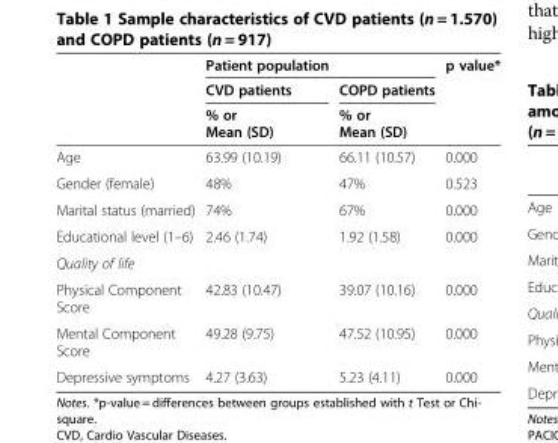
<table><thead><tr><td rowspan="3"></td><td colspan="2">Patient population</td><td rowspan="3">p value*</td></tr><tr><td rowspan="2">CVD patients % or Mean (SD)</td><td rowspan="2">COPD patients % or Mean (SD)</td></tr><tr></tr></thead><tbody><tr><td>Age</td><td>63.99 (10.19)</td><td>66.11 (10.57)</td><td>0.000</td></tr><tr><td>Gender (female)</td><td>48%</td><td>47%</td><td>0.523</td></tr><tr><td>Marital status (married)</td><td>74%</td><td>67%</td><td>0.000</td></tr><tr><td>Educational level (1–6)</td><td>2.46 (1.74)</td><td>1.92 (1.58)</td><td>0.000</td></tr><tr><td colspan="4">Quality of life</td></tr><tr><td>Physical Component Score</td><td>42.83 (10.47)</td><td>39.07 (10.16)</td><td>0.000</td></tr><tr><td>Mental Component Score</td><td>49.28 (9.75)</td><td>47.52 (10.95)</td><td>0.000</td></tr><tr><td>Depressive symptoms</td><td>4.27 (3.63)</td><td>5.23 (4.11)</td><td>0.000</td></tr></tbody></table>